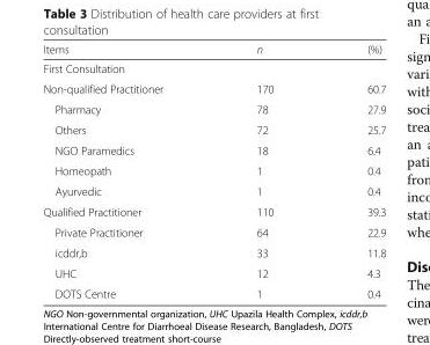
<table><thead><tr><td>Items</td><td>n</td><td>(%)</td></tr></thead><tbody><tr><td colspan="3">First Consultation</td></tr><tr><td>Non-qualified Practitioner</td><td>170</td><td>60.7</td></tr><tr><td>Pharmacy</td><td>78</td><td>27.9</td></tr><tr><td>Others</td><td>72</td><td>25.7</td></tr><tr><td>NGO Paramedics</td><td>18</td><td>6.4</td></tr><tr><td>Homeopath</td><td>1</td><td>0.4</td></tr><tr><td>Ayurvedic</td><td>1</td><td>0.4</td></tr><tr><td>Qualified Practitioner</td><td>110</td><td>39.3</td></tr><tr><td>Private Practitioner</td><td>64</td><td>22.9</td></tr><tr><td>icddr,b</td><td>33</td><td>11.8</td></tr><tr><td>UHC</td><td>12</td><td>4.3</td></tr><tr><td>DOTS Centre</td><td>1</td><td>0.4</td></tr></tbody></table>